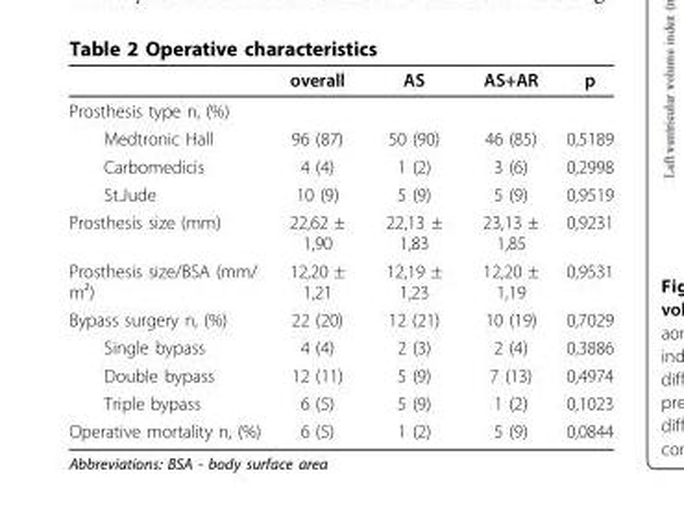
<table><thead><tr><td></td><td>overall</td><td>AS</td><td>AS+AR</td><td>p</td></tr></thead><tbody><tr><td colspan="5">Prosthesis type n, (%)</td></tr><tr><td>Medtronic Hall</td><td>96 (87)</td><td>50 (90)</td><td>46 (85)</td><td>0,5189</td></tr><tr><td>Carbomedicis</td><td>4 (4)</td><td>1 (2)</td><td>3 (6)</td><td>0,2998</td></tr><tr><td>St.Jude</td><td>10 (9)</td><td>5 (9)</td><td>5 (9)</td><td>0,9519</td></tr><tr><td>Prosthesis size (mm)</td><td>22,62 ± 1,90</td><td>22,13 ± 1,83</td><td>23,13 ± 1,85</td><td>0,9231</td></tr><tr><td>Prosthesis size/BSA (mm/ m²)</td><td>12,20 ± 1,21</td><td>12,19 ± 1,23</td><td>12,20 ± 1,19</td><td>0,9531</td></tr><tr><td>Bypass surgery n, (%)</td><td>22 (20)</td><td>12 (21)</td><td>10 (19)</td><td>0,7029</td></tr><tr><td>Single bypass</td><td>4 (4)</td><td>2 (3)</td><td>2 (4)</td><td>0,3886</td></tr><tr><td>Double bypass</td><td>12 (11)</td><td>5 (9)</td><td>7 (13)</td><td>0,4974</td></tr><tr><td>Triple bypass</td><td>6 (5)</td><td>5 (9)</td><td>1 (2)</td><td>0,1023</td></tr><tr><td>Operative mortality n, (%)</td><td>6 (5)</td><td>1 (2)</td><td>5 (9)</td><td>0,0844</td></tr></tbody></table>